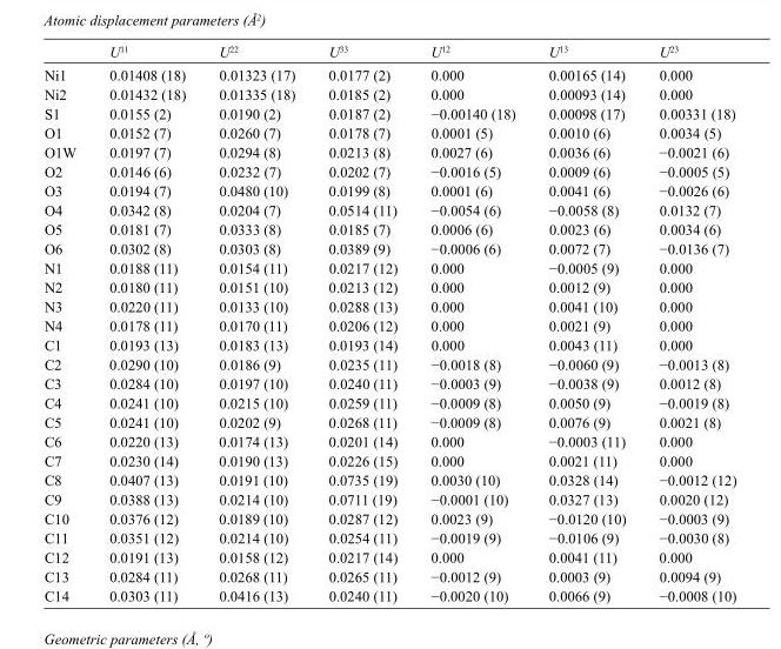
<table><thead><tr><td></td><td>U<sup>11</sup></td><td>U<sup>22</sup></td><td>U<sup>33</sup></td><td>U<sup>12</sup></td><td>U<sup>13</sup></td><td>U<sup>23</sup></td></tr></thead><tbody><tr><td>Ni1</td><td>0.01408 (18)</td><td>0.01323 (17)</td><td>0.0177 (2)</td><td>0.000</td><td>0.00165 (14)</td><td>0.000</td></tr><tr><td>Ni2</td><td>0.01432 (18)</td><td>0.01335 (18)</td><td>0.0185 (2)</td><td>0.000</td><td>0.00093 (14)</td><td>0.000</td></tr><tr><td>S1</td><td>0.0155 (2)</td><td>0.0190 (2)</td><td>0.0187 (2)</td><td>−0.00140 (18)</td><td>0.00098 (17)</td><td>0.00331 (18)</td></tr><tr><td>O1</td><td>0.0152 (7)</td><td>0.0260 (7)</td><td>0.0178 (7)</td><td>0.0001 (5)</td><td>0.0010 (6)</td><td>0.0034 (5)</td></tr><tr><td>O1W</td><td>0.0197 (7)</td><td>0.0294 (8)</td><td>0.0213 (8)</td><td>0.0027 (6)</td><td>0.0036 (6)</td><td>−0.0021 (6)</td></tr><tr><td>O2</td><td>0.0146 (6)</td><td>0.0232 (7)</td><td>0.0202 (7)</td><td>−0.0016 (5)</td><td>0.0009 (6)</td><td>−0.0005 (5)</td></tr><tr><td>O3</td><td>0.0194 (7)</td><td>0.0480 (10)</td><td>0.0199 (8)</td><td>0.0001 (6)</td><td>0.0041 (6)</td><td>−0.0026 (6)</td></tr><tr><td>O4</td><td>0.0342 (8)</td><td>0.0204 (7)</td><td>0.0514 (11)</td><td>−0.0054 (6)</td><td>−0.0058 (8)</td><td>0.0132 (7)</td></tr><tr><td>O5</td><td>0.0181 (7)</td><td>0.0333 (8)</td><td>0.0185 (7)</td><td>0.0006 (6)</td><td>0.0023 (6)</td><td>0.0034 (6)</td></tr><tr><td>O6</td><td>0.0302 (8)</td><td>0.0303 (8)</td><td>0.0389 (9)</td><td>−0.0006 (6)</td><td>0.0072 (7)</td><td>−0.0136 (7)</td></tr><tr><td>N1</td><td>0.0188 (11)</td><td>0.0154 (11)</td><td>0.0217 (12)</td><td>0.000</td><td>−0.0005 (9)</td><td>0.000</td></tr><tr><td>N2</td><td>0.0180 (11)</td><td>0.0151 (10)</td><td>0.0213 (12)</td><td>0.000</td><td>0.0012 (9)</td><td>0.000</td></tr><tr><td>N3</td><td>0.0220 (11)</td><td>0.0133 (10)</td><td>0.0288 (13)</td><td>0.000</td><td>0.0041 (10)</td><td>0.000</td></tr><tr><td>N4</td><td>0.0178 (11)</td><td>0.0170 (11)</td><td>0.0206 (12)</td><td>0.000</td><td>0.0021 (9)</td><td>0.000</td></tr><tr><td>C1</td><td>0.0193 (13)</td><td>0.0183 (13)</td><td>0.0193 (14)</td><td>0.000</td><td>0.0043 (11)</td><td>0.000</td></tr><tr><td>C2</td><td>0.0290 (10)</td><td>0.0186 (9)</td><td>0.0235 (11)</td><td>−0.0018 (8)</td><td>−0.0060 (9)</td><td>−0.0013 (8)</td></tr><tr><td>C3</td><td>0.0284 (10)</td><td>0.0197 (10)</td><td>0.0240 (11)</td><td>−0.0003 (9)</td><td>−0.0038 (9)</td><td>0.0012 (8)</td></tr><tr><td>C4</td><td>0.0241 (10)</td><td>0.0215 (10)</td><td>0.0259 (11)</td><td>−0.0009 (8)</td><td>0.0050 (9)</td><td>−0.0019 (8)</td></tr><tr><td>C5</td><td>0.0241 (10)</td><td>0.0202 (9)</td><td>0.0268 (11)</td><td>−0.0009 (8)</td><td>0.0076 (9)</td><td>0.0021 (8)</td></tr><tr><td>C6</td><td>0.0220 (13)</td><td>0.0174 (13)</td><td>0.0201 (14)</td><td>0.000</td><td>−0.0003 (11)</td><td>0.000</td></tr><tr><td>C7</td><td>0.0230 (14)</td><td>0.0190 (13)</td><td>0.0226 (15)</td><td>0.000</td><td>0.0021 (11)</td><td>0.000</td></tr><tr><td>C8</td><td>0.0407 (13)</td><td>0.0191 (10)</td><td>0.0735 (19)</td><td>0.0030 (10)</td><td>0.0328 (14)</td><td>−0.0012 (12)</td></tr><tr><td>C9</td><td>0.0388 (13)</td><td>0.0214 (10)</td><td>0.0711 (19)</td><td>−0.0001 (10)</td><td>0.0327 (13)</td><td>0.0020 (12)</td></tr><tr><td>C10</td><td>0.0376 (12)</td><td>0.0189 (10)</td><td>0.0287 (12)</td><td>0.0023 (9)</td><td>−0.0120 (10)</td><td>−0.0003 (9)</td></tr><tr><td>C11</td><td>0.0351 (12)</td><td>0.0214 (10)</td><td>0.0254 (11)</td><td>−0.0019 (9)</td><td>−0.0106 (9)</td><td>−0.0030 (8)</td></tr><tr><td>C12</td><td>0.0191 (13)</td><td>0.0158 (12)</td><td>0.0217 (14)</td><td>0.000</td><td>0.0041 (11)</td><td>0.000</td></tr><tr><td>C13</td><td>0.0284 (11)</td><td>0.0268 (11)</td><td>0.0265 (11)</td><td>−0.0012 (9)</td><td>0.0003 (9)</td><td>0.0094 (9)</td></tr><tr><td>C14</td><td>0.0303 (11)</td><td>0.0416 (13)</td><td>0.0240 (11)</td><td>−0.0020 (10)</td><td>0.0066 (9)</td><td>−0.0008 (10)</td></tr></tbody></table>